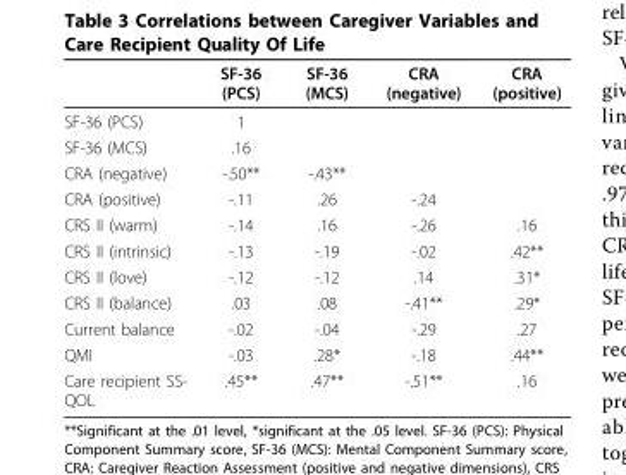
<table><thead><tr><td></td><td>SF-36 (PCS)</td><td>SF-36 (MCS)</td><td>CRA (negative)</td><td>CRA (positive)</td></tr></thead><tbody><tr><td>SF-36 (PCS)</td><td>1</td><td></td><td></td><td></td></tr><tr><td>SF-36 (MCS)</td><td>.16</td><td></td><td></td><td></td></tr><tr><td>CRA (negative)</td><td>-.50**</td><td>-.43**</td><td></td><td></td></tr><tr><td>CRA (positive)</td><td>-.11</td><td>.26</td><td>-.24</td><td></td></tr><tr><td>CRS II (warm)</td><td>-.14</td><td>.16</td><td>-.26</td><td>.16</td></tr><tr><td>CRS II (intrinsic)</td><td>-.13</td><td>-.19</td><td>-.02</td><td>.42**</td></tr><tr><td>CRS II (love)</td><td>-.12</td><td>-.12</td><td>.14</td><td>.31*</td></tr><tr><td>CRS II (balance)</td><td>.03</td><td>.08</td><td>-.41**</td><td>.29*</td></tr><tr><td>Current balance</td><td>-.02</td><td>-.04</td><td>-.29</td><td>.27</td></tr><tr><td>QMI</td><td>-.03</td><td>.28*</td><td>-.18</td><td>.44**</td></tr><tr><td>Care recipient SS- QOL</td><td>.45**</td><td>.47**</td><td>-.51**</td><td>.16</td></tr></tbody></table>